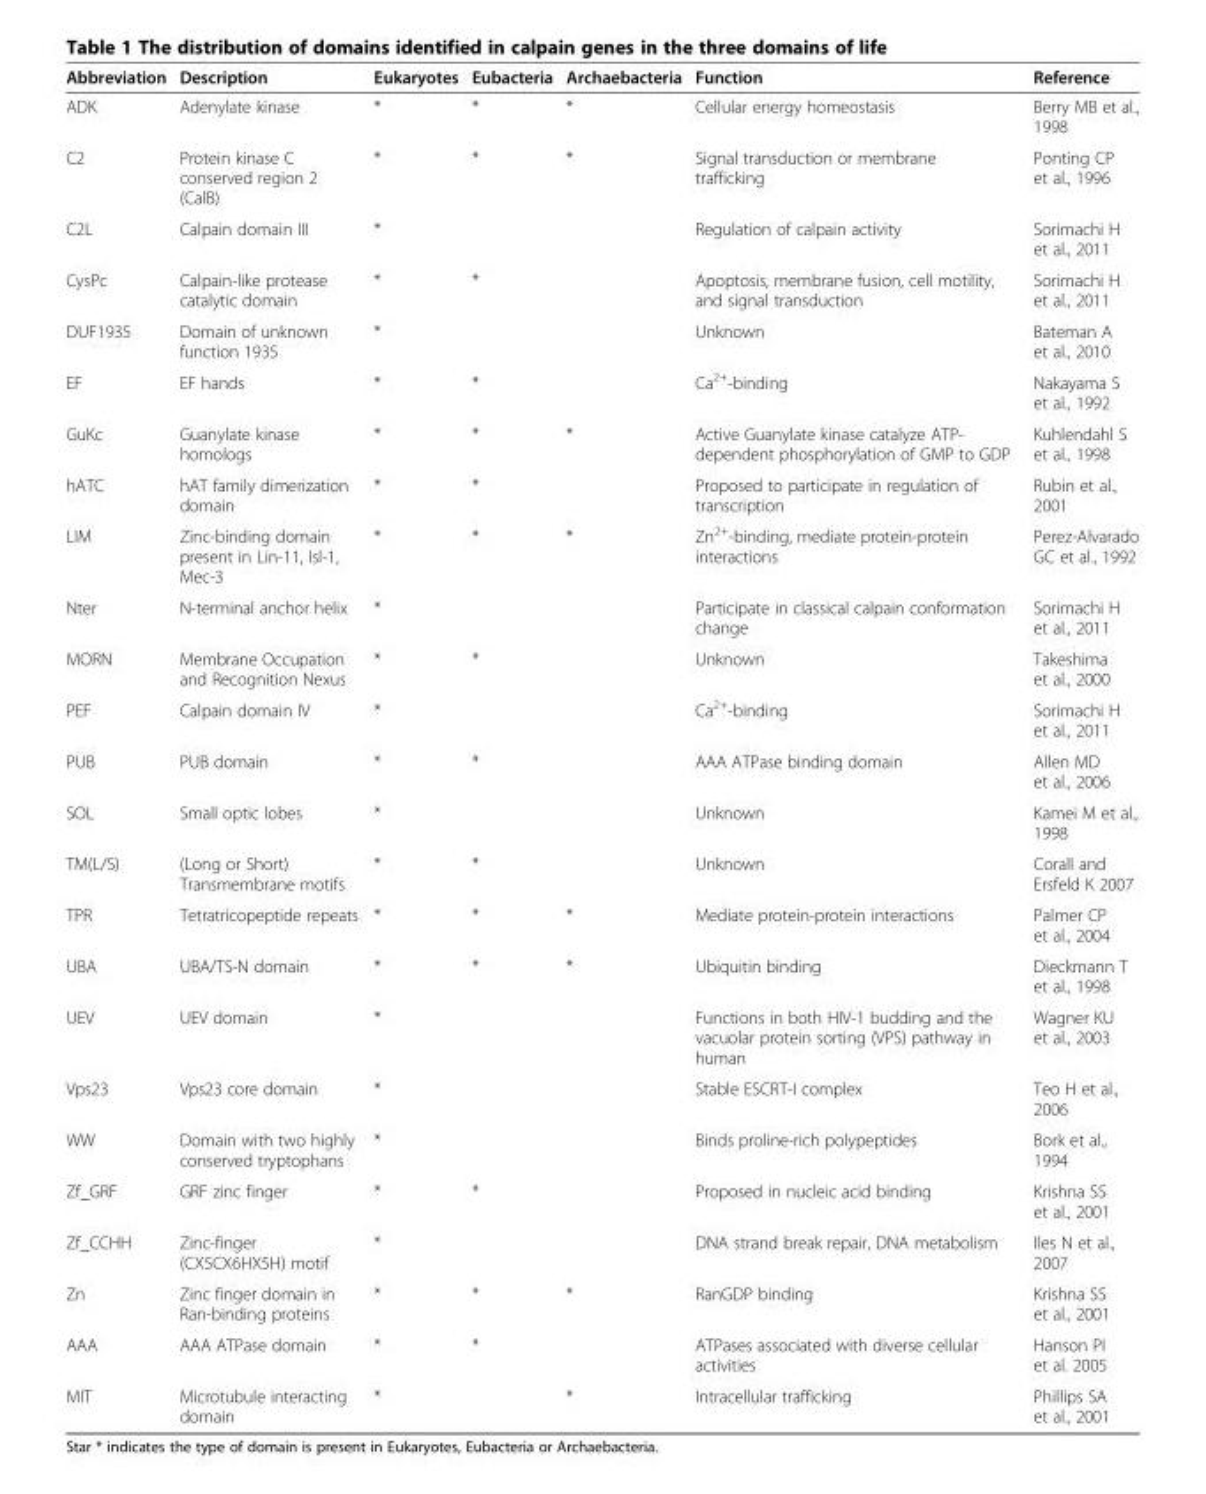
<table><thead><tr><td>Abbreviation</td><td>Description</td><td>Eukaryotes</td><td>Eubacteria</td><td>Archaebacteria</td><td>Function</td><td>Reference</td></tr></thead><tbody><tr><td>ADK</td><td>Adenylate kinase</td><td>*</td><td>*</td><td>*</td><td>Cellular energy homeostasis</td><td>Berry MB et al., 1998</td></tr><tr><td>C2</td><td>Protein kinase C conserved region 2 (CalB)</td><td>*</td><td>*</td><td>*</td><td>Signal transduction or membrane trafficking</td><td>Ponting CP et al., 1996</td></tr><tr><td>C2L</td><td>Calpain domain III</td><td>*</td><td></td><td></td><td>Regulation of calpain activity</td><td>Sorimachi H et al., 2011</td></tr><tr><td>CysPc</td><td>Calpain-like protease catalytic domain</td><td>*</td><td>*</td><td></td><td>Apoptosis, membrane fusion, cell motility, and signal transduction</td><td>Sorimachi H et al., 2011</td></tr><tr><td>DUF1935</td><td>Domain of unknown function 1935</td><td>*</td><td></td><td></td><td>Unknown</td><td>Bateman A et al., 2010</td></tr><tr><td>EF</td><td>EF hands</td><td>*</td><td>*</td><td></td><td>Ca<sup>2+</sup>-binding</td><td>Nakayama S et al., 1992</td></tr><tr><td>GuKc</td><td>Guanylate kinase homologs</td><td>*</td><td>*</td><td>*</td><td>Active Guanylate kinase catalyze ATP- dependent phosphorylation of GMP to GDP</td><td>Kuhlendahl S et al., 1998</td></tr><tr><td>hATC</td><td>hAT family dimerization domain</td><td>*</td><td>*</td><td></td><td>Proposed to participate in regulation of transcription</td><td>Rubin et al., 2001</td></tr><tr><td>LIM</td><td>Zinc-binding domain present in Lin-11, Isl-1, Mec-3</td><td>*</td><td>*</td><td>*</td><td>Zn<sup>2+</sup>-binding, mediate protein-protein interactions</td><td>Perez-Alvarado GC et al., 1992</td></tr><tr><td>Nter</td><td>N-terminal anchor helix</td><td>*</td><td></td><td></td><td>Participate in classical calpain conformation change</td><td>Sorimachi H et al., 2011</td></tr><tr><td>MORN</td><td>Membrane Occupation and Recognition Nexus</td><td>*</td><td>*</td><td></td><td>Unknown</td><td>Takeshima et al., 2000</td></tr><tr><td>PEF</td><td>Calpain domain IV</td><td>*</td><td></td><td></td><td>Ca<sup>2+</sup>-binding</td><td>Sorimachi H et al., 2011</td></tr><tr><td>PUB</td><td>PUB domain</td><td>*</td><td>*</td><td></td><td>AAA ATPase binding domain</td><td>Allen MD et al., 2006</td></tr><tr><td>SOL</td><td>Small optic lobes</td><td>*</td><td></td><td></td><td>Unknown</td><td>Kamei M et al., 1998</td></tr><tr><td>TM(L/S)</td><td>(Long or Short) Transmembrane motifs</td><td>*</td><td>*</td><td></td><td>Unknown</td><td>Corall and Ersfeld K 2007</td></tr><tr><td>TPR</td><td>Tetratricopeptide repeats</td><td>*</td><td>*</td><td>*</td><td>Mediate protein-protein interactions</td><td>Palmer CP et al., 2004</td></tr><tr><td>UBA</td><td>UBA/TS-N domain</td><td>*</td><td>*</td><td>*</td><td>Ubiquitin binding</td><td>Dieckmann T et al., 1998</td></tr><tr><td>UEV</td><td>UEV domain</td><td>*</td><td></td><td></td><td>Functions in both HIV-1 budding and the vacuolar protein sorting (VPS) pathway in human</td><td>Wagner KU et al., 2003</td></tr><tr><td>Vps23</td><td>Vps23 core domain</td><td>*</td><td></td><td></td><td>Stable ESCRT-I complex</td><td>Teo H et al., 2006</td></tr><tr><td>WW</td><td>Domain with two highly conserved tryptophans</td><td>*</td><td></td><td></td><td>Binds proline-rich polypeptides</td><td>Bork et al., 1994</td></tr><tr><td>Zf_GRF</td><td>GRF zinc finger</td><td>*</td><td>*</td><td></td><td>Proposed in nucleic acid binding</td><td>Krishna SS et al., 2001</td></tr><tr><td>Zf_CCHH</td><td>Zinc-finger (CX5CX6HX5H) motif</td><td>*</td><td></td><td></td><td>DNA strand break repair, DNA metabolism</td><td>Iles N et al., 2007</td></tr><tr><td>Zn</td><td>Zinc finger domain in Ran-binding proteins</td><td>*</td><td>*</td><td>*</td><td>RanGDP binding</td><td>Krishna SS et al., 2001</td></tr><tr><td>AAA</td><td>AAA ATPase domain</td><td>*</td><td>*</td><td></td><td>ATPases associated with diverse cellular activities</td><td>Hanson PI et al. 2005</td></tr><tr><td>MIT</td><td>Microtubule interacting domain</td><td>*</td><td></td><td>*</td><td>Intracellular trafficking</td><td>Phillips SA et al., 2001</td></tr></tbody></table>